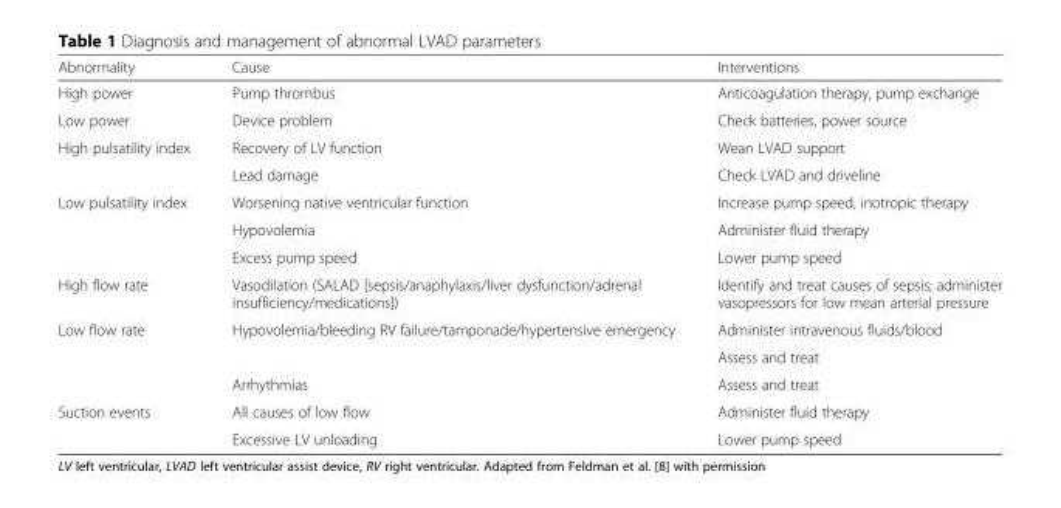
<table><thead><tr><td>Abnormality</td><td>Cause</td><td>Interventions</td></tr></thead><tbody><tr><td>High power</td><td>Pump thrombus</td><td>Anticoagulation therapy, pump exchange</td></tr><tr><td>Low power</td><td>Device problem</td><td>Check batteries, power source</td></tr><tr><td rowspan="2">High pulsatility index</td><td>Recovery of LV function</td><td>Wean LVAD support</td></tr><tr><td>Lead damage</td><td>Check LVAD and driveline</td></tr><tr><td rowspan="3">Low pulsatility index</td><td>Worsening native ventricular function</td><td>Increase pump speed, inotropic therapy</td></tr><tr><td>Hypovolemia</td><td>Administer fluid therapy</td></tr><tr><td>Excess pump speed</td><td>Lower pump speed</td></tr><tr><td>High flow rate</td><td>Vasodilation (SALAD [sepsis/anaphylaxis/liver dysfunction/adrenal insufficiency/medications])</td><td>Identify and treat causes of sepsis; administer vasopressors for low mean arterial pressure</td></tr><tr><td rowspan="3">Low flow rate</td><td rowspan="2">Hypovolemia/bleeding RV failure/tamponade/hypertensive emergency</td><td>Administer intravenous fluids/blood</td></tr><tr><td>Assess and treat</td></tr><tr><td>Arrhythmias</td><td>Assess and treat</td></tr><tr><td rowspan="2">Suction events</td><td>All causes of low flow</td><td>Administer fluid therapy</td></tr><tr><td>Excessive LV unloading</td><td>Lower pump speed</td></tr></tbody></table>